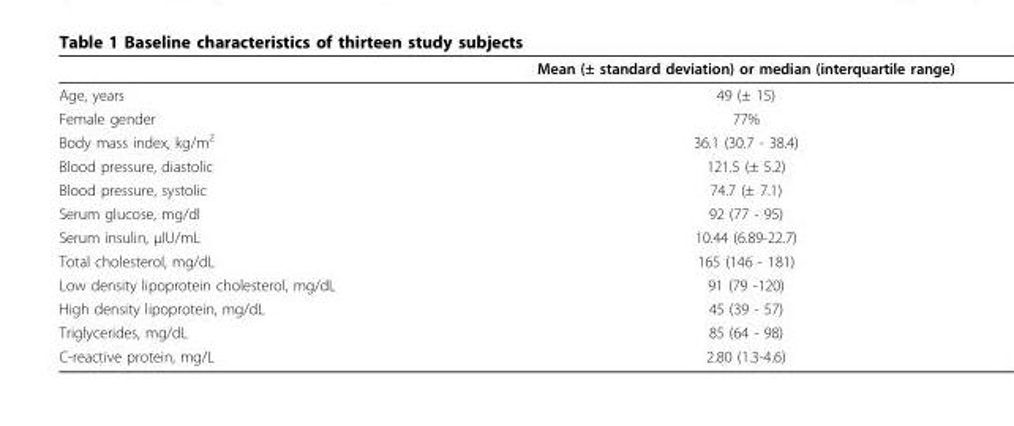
<table><thead><tr><td></td><td>Mean (± standard deviation) or median (interquartile range)</td></tr></thead><tbody><tr><td>Age, years</td><td>49 (± 15)</td></tr><tr><td>Female gender</td><td>77%</td></tr><tr><td>Body mass index, kg/m<sup>2</sup></td><td>36.1 (30.7 - 38.4)</td></tr><tr><td>Blood pressure, diastolic</td><td>121.5 (± 5.2)</td></tr><tr><td>Blood pressure, systolic</td><td>74.7 (± 7.1)</td></tr><tr><td>Serum glucose, mg/dl</td><td>92 (77 - 95)</td></tr><tr><td>Serum insulin, μIU/mL</td><td>10.44 (6.89-22.7)</td></tr><tr><td>Total cholesterol, mg/dL</td><td>165 (146 - 181)</td></tr><tr><td>Low density lipoprotein cholesterol, mg/dL</td><td>91 (79 -120)</td></tr><tr><td>High density lipoprotein, mg/dL</td><td>45 (39 - 57)</td></tr><tr><td>Triglycerides, mg/dL</td><td>85 (64 - 98)</td></tr><tr><td>C-reactive protein, mg/L</td><td>2.80 (1.3-4.6)</td></tr></tbody></table>